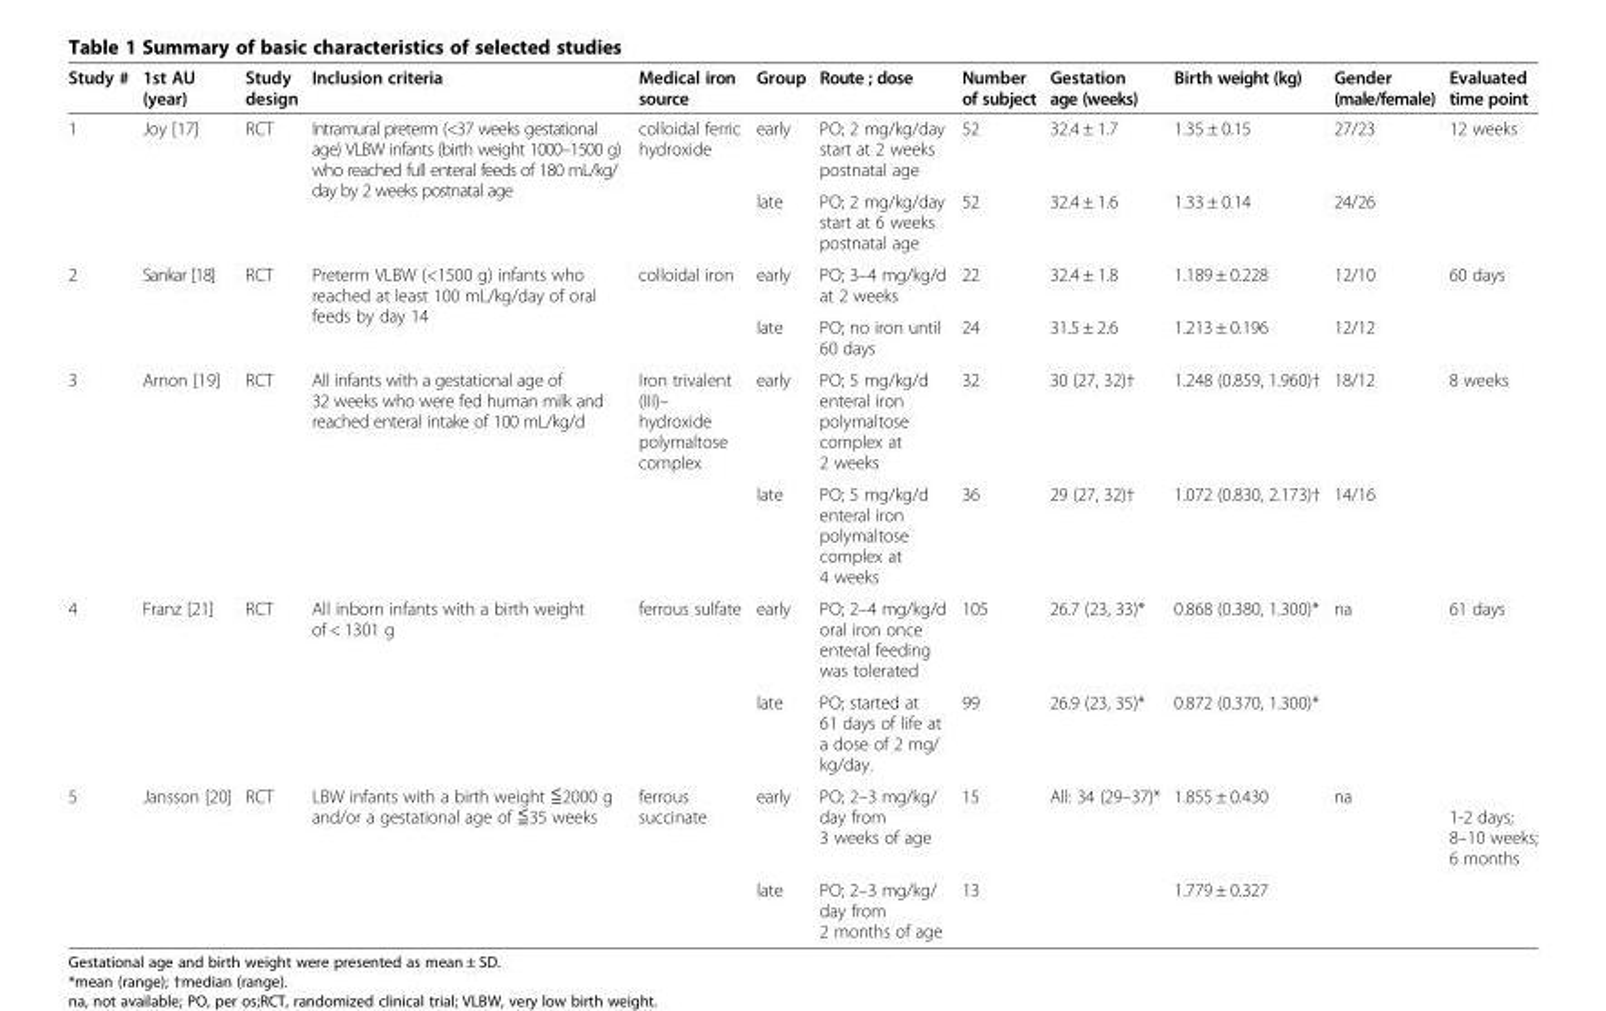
<table><thead><tr><td>Study #</td><td>1st AU (year)</td><td>Study design</td><td>Inclusion criteria</td><td>Medical iron source</td><td>Group</td><td>Route ; dose</td><td>Number of subject</td><td>Gestation age (weeks)</td><td>Birth weight (kg)</td><td>Gender (male/female)</td><td>Evaluated time point</td></tr></thead><tbody><tr><td rowspan="2">1</td><td>Joy [17]</td><td>RCT</td><td rowspan="2">Intramural preterm (&lt;37 weeks gestational age) VLBW infants (birth weight 1000–1500 g) who reached full enteral feeds of 180 mL/kg/ day by 2 weeks postnatal age</td><td>colloidal ferric hydroxide</td><td>early</td><td>PO; 2 mg/kg/day start at 2 weeks postnatal age</td><td>52</td><td>32.4 ± 1.7</td><td>1.35 ± 0.15</td><td>27/23</td><td>12 weeks</td></tr><tr><td></td><td></td><td></td><td>late</td><td>PO; 2 mg/kg/day start at 6 weeks postnatal age</td><td>52</td><td>32.4 ± 1.6</td><td>1.33 ± 0.14</td><td>24/26</td><td></td></tr><tr><td rowspan="2">2</td><td>Sankar [18]</td><td>RCT</td><td rowspan="2">Preterm VLBW (&lt;1500 g) infants who reached at least 100 mL/kg/day of oral feeds by day 14</td><td>colloidal iron</td><td>early</td><td>PO; 3–4 mg/kg/d at 2 weeks</td><td>22</td><td>32.4 ± 1.8</td><td>1.189 ± 0.228</td><td>12/10</td><td>60 days</td></tr><tr><td></td><td></td><td></td><td>late</td><td>PO; no iron until 60 days</td><td>24</td><td>31.5 ± 2.6</td><td>1.213 ± 0.196</td><td>12/12</td><td></td></tr><tr><td rowspan="2">3</td><td>Arnon [19]</td><td>RCT</td><td rowspan="2">All infants with a gestational age of 32 weeks who were fed human milk and reached enteral intake of 100 mL/kg/d</td><td>Iron trivalent (III)– hydroxide polymaltose complex</td><td>early</td><td>PO; 5 mg/kg/d enteral iron polymaltose complex at 2 weeks</td><td>32</td><td>30 (27, 32)†</td><td>1.248 (0.859, 1.960)†</td><td>18/12</td><td>8 weeks</td></tr><tr><td></td><td></td><td></td><td>late</td><td>PO; 5 mg/kg/d enteral iron polymaltose complex at 4 weeks</td><td>36</td><td>29 (27, 32)†</td><td>1.072 (0.830, 2.173)†</td><td>14/16</td><td></td></tr><tr><td rowspan="2">4</td><td>Franz [21]</td><td>RCT</td><td rowspan="2">All inborn infants with a birth weight of &lt; 1301 g</td><td>ferrous sulfate</td><td>early</td><td>PO; 2–4 mg/kg/d oral iron once enteral feeding was tolerated</td><td>105</td><td>26.7 (23, 33)*</td><td>0.868 (0.380, 1.300)*</td><td rowspan="2">na</td><td>61 days</td></tr><tr><td></td><td></td><td></td><td>late</td><td>PO; started at 61 days of life at a dose of 2 mg/ kg/day.</td><td>99</td><td>26.9 (23, 35)*</td><td>0.872 (0.370, 1.300)*</td><td></td></tr><tr><td rowspan="2">5</td><td>Jansson [20]</td><td>RCT</td><td rowspan="2">LBW infants with a birth weight ≦2000 g and/or a gestational age of ≦35 weeks</td><td>ferrous succinate</td><td>early</td><td>PO; 2–3 mg/kg/ day from 3 weeks of age</td><td>15</td><td>All: 34 (29–37)*</td><td>1.855 ± 0.430</td><td rowspan="2">na</td><td>1-2 days; 8–10 weeks; 6 months</td></tr><tr><td></td><td></td><td></td><td>late</td><td>PO; 2–3 mg/kg/ day from 2 months of age</td><td>13</td><td></td><td>1.779 ± 0.327</td><td></td></tr></tbody></table>